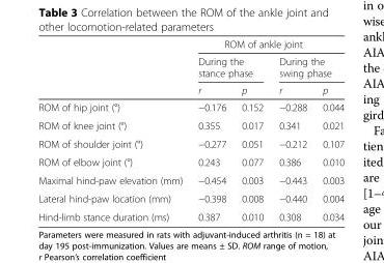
<table><thead><tr><td rowspan="3"></td><td colspan="4">ROM of ankle joint</td></tr><tr><td colspan="2">During the stance phase</td><td colspan="2">During the swing phase</td></tr><tr><td>r</td><td>p</td><td>r</td><td>p</td></tr></thead><tbody><tr><td>ROM of hip joint (°)</td><td>−0.176</td><td>0.152</td><td>−0.288</td><td>0.044</td></tr><tr><td>ROM of knee joint (°)</td><td>0.355</td><td>0.017</td><td>0.341</td><td>0.021</td></tr><tr><td>ROM of shoulder joint (°)</td><td>−0.277</td><td>0.051</td><td>−0.212</td><td>0.107</td></tr><tr><td>ROM of elbow joint (°)</td><td>0.243</td><td>0.077</td><td>0.386</td><td>0.010</td></tr><tr><td>Maximal hind-paw elevation (mm)</td><td>−0.454</td><td>0.003</td><td>−0.443</td><td>0.003</td></tr><tr><td>Lateral hind-paw location (mm)</td><td>−0.398</td><td>0.008</td><td>−0.440</td><td>0.004</td></tr><tr><td>Hind-limb stance duration (ms)</td><td>0.387</td><td>0.010</td><td>0.308</td><td>0.034</td></tr></tbody></table>